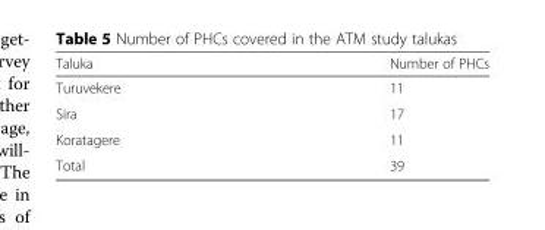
<table><thead><tr><td>Taluka</td><td>Number of PHCs</td></tr></thead><tbody><tr><td>Turuvekere</td><td>11</td></tr><tr><td>Sira</td><td>17</td></tr><tr><td>Koratagere</td><td>11</td></tr><tr><td>Total</td><td>39</td></tr></tbody></table>